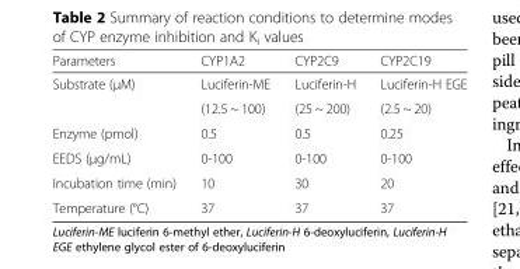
<table><thead><tr><td>Parameters</td><td>CYP1A2</td><td>CYP2C9</td><td>CYP2C19</td></tr></thead><tbody><tr><td rowspan="2">Substrate (μM)</td><td>Luciferin-ME</td><td>Luciferin-H</td><td>Luciferin-H EGE</td></tr><tr><td>(12.5 ~ 100)</td><td>(25 ~ 200)</td><td>(2.5 ~ 20)</td></tr><tr><td>Enzyme (pmol)</td><td>0.5</td><td>0.5</td><td>0.25</td></tr><tr><td>EEDS (μg/mL)</td><td>0-100</td><td>0-100</td><td>0-100</td></tr><tr><td>Incubation time (min)</td><td>10</td><td>30</td><td>20</td></tr><tr><td>Temperature (°C)</td><td>37</td><td>37</td><td>37</td></tr></tbody></table>